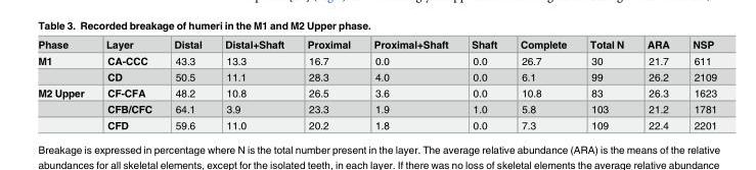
<table><thead><tr><td>Phase</td><td>Layer</td><td>Distal</td><td>Distal+Shaft</td><td>Proximal</td><td>Proximal+Shaft</td><td>Shaft</td><td>Complete</td><td>Total N</td><td>ARA</td><td>NSP</td></tr></thead><tbody><tr><td rowspan="2">M1</td><td>CA-CCC</td><td>43.3</td><td>13.3</td><td>16.7</td><td>0.0</td><td>0.0</td><td>26.7</td><td>30</td><td>21.7</td><td>611</td></tr><tr><td>CD</td><td>50.5</td><td>11.1</td><td>28.3</td><td>4.0</td><td>0.0</td><td>6.1</td><td>99</td><td>26.2</td><td>2109</td></tr><tr><td rowspan="3">M2 Upper</td><td>CF-CFA</td><td>48.2</td><td>10.8</td><td>26.5</td><td>3.6</td><td>0.0</td><td>10.8</td><td>83</td><td>26.3</td><td>1623</td></tr><tr><td>CFB/CFC</td><td>64.1</td><td>3.9</td><td>23.3</td><td>1.9</td><td>1.0</td><td>5.8</td><td>103</td><td>21.2</td><td>1781</td></tr><tr><td>CFD</td><td>59.6</td><td>11.0</td><td>20.2</td><td>1.8</td><td>0.0</td><td>7.3</td><td>109</td><td>22.4</td><td>2201</td></tr></tbody></table>